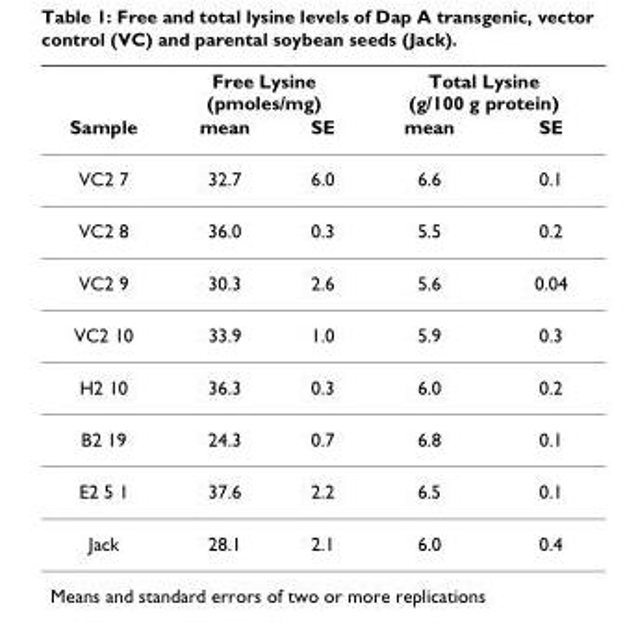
<table><thead><tr><td rowspan="2">Sample</td><td colspan="2">Free Lysine (pmoles/mg)</td><td colspan="2">Total Lysine (g/100 g protein)</td></tr><tr><td>mean</td><td>SE</td><td>mean</td><td>SE</td></tr></thead><tbody><tr><td>VC2 7</td><td>32.7</td><td>6.0</td><td>6.6</td><td>0.1</td></tr><tr><td>VC2 8</td><td>36.0</td><td>0.3</td><td>5.5</td><td>0.2</td></tr><tr><td>VC2 9</td><td>30.3</td><td>2.6</td><td>5.6</td><td>0.04</td></tr><tr><td>VC2 10</td><td>33.9</td><td>1.0</td><td>5.9</td><td>0.3</td></tr><tr><td>H2 10</td><td>36.3</td><td>0.3</td><td>6.0</td><td>0.2</td></tr><tr><td>B2 19</td><td>24.3</td><td>0.7</td><td>6.8</td><td>0.1</td></tr><tr><td>E2 5 1</td><td>37.6</td><td>2.2</td><td>6.5</td><td>0.1</td></tr><tr><td>Jack</td><td>28.1</td><td>2.1</td><td>6.0</td><td>0.4</td></tr></tbody></table>